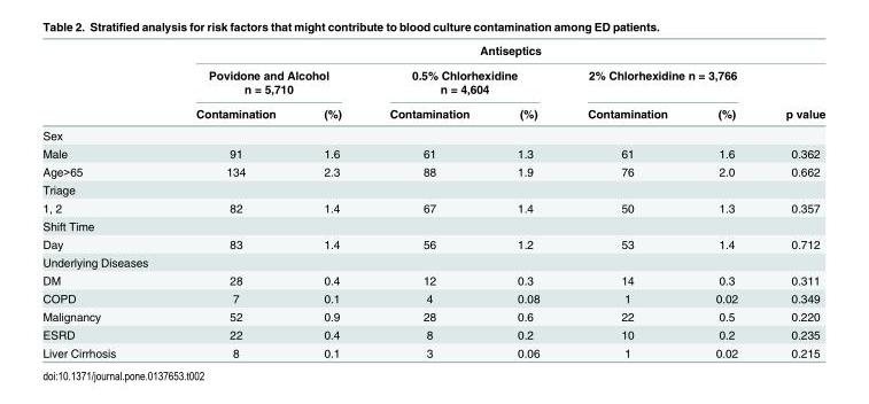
<table><thead><tr><td rowspan="3"></td><td colspan="7">Antiseptics</td></tr><tr><td colspan="2">Povidone and Alcohol n = 5,710</td><td colspan="2">0.5% Chlorhexidine n = 4,604</td><td colspan="2">2% Chlorhexidine n = 3,766</td><td rowspan="2">p value</td></tr><tr><td>Contamination</td><td>(%)</td><td>Contamination</td><td>(%)</td><td>Contamination</td><td>(%)</td></tr></thead><tbody><tr><td colspan="8">Sex</td></tr><tr><td>Male</td><td>91</td><td>1.6</td><td>61</td><td>1.3</td><td>61</td><td>1.6</td><td>0.362</td></tr><tr><td>Age&gt;65</td><td>134</td><td>2.3</td><td>88</td><td>1.9</td><td>76</td><td>2.0</td><td>0.662</td></tr><tr><td colspan="8">Triage</td></tr><tr><td>1, 2</td><td>82</td><td>1.4</td><td>67</td><td>1.4</td><td>50</td><td>1.3</td><td>0.357</td></tr><tr><td colspan="8">Shift Time</td></tr><tr><td>Day</td><td>83</td><td>1.4</td><td>56</td><td>1.2</td><td>53</td><td>1.4</td><td>0.712</td></tr><tr><td colspan="8">Underlying Diseases</td></tr><tr><td>DM</td><td>28</td><td>0.4</td><td>12</td><td>0.3</td><td>14</td><td>0.3</td><td>0.311</td></tr><tr><td>COPD</td><td>7</td><td>0.1</td><td>4</td><td>0.08</td><td>1</td><td>0.02</td><td>0.349</td></tr><tr><td>Malignancy</td><td>52</td><td>0.9</td><td>28</td><td>0.6</td><td>22</td><td>0.5</td><td>0.220</td></tr><tr><td>ESRD</td><td>22</td><td>0.4</td><td>8</td><td>0.2</td><td>10</td><td>0.2</td><td>0.235</td></tr><tr><td>Liver Cirrhosis</td><td>8</td><td>0.1</td><td>3</td><td>0.06</td><td>1</td><td>0.02</td><td>0.215</td></tr></tbody></table>